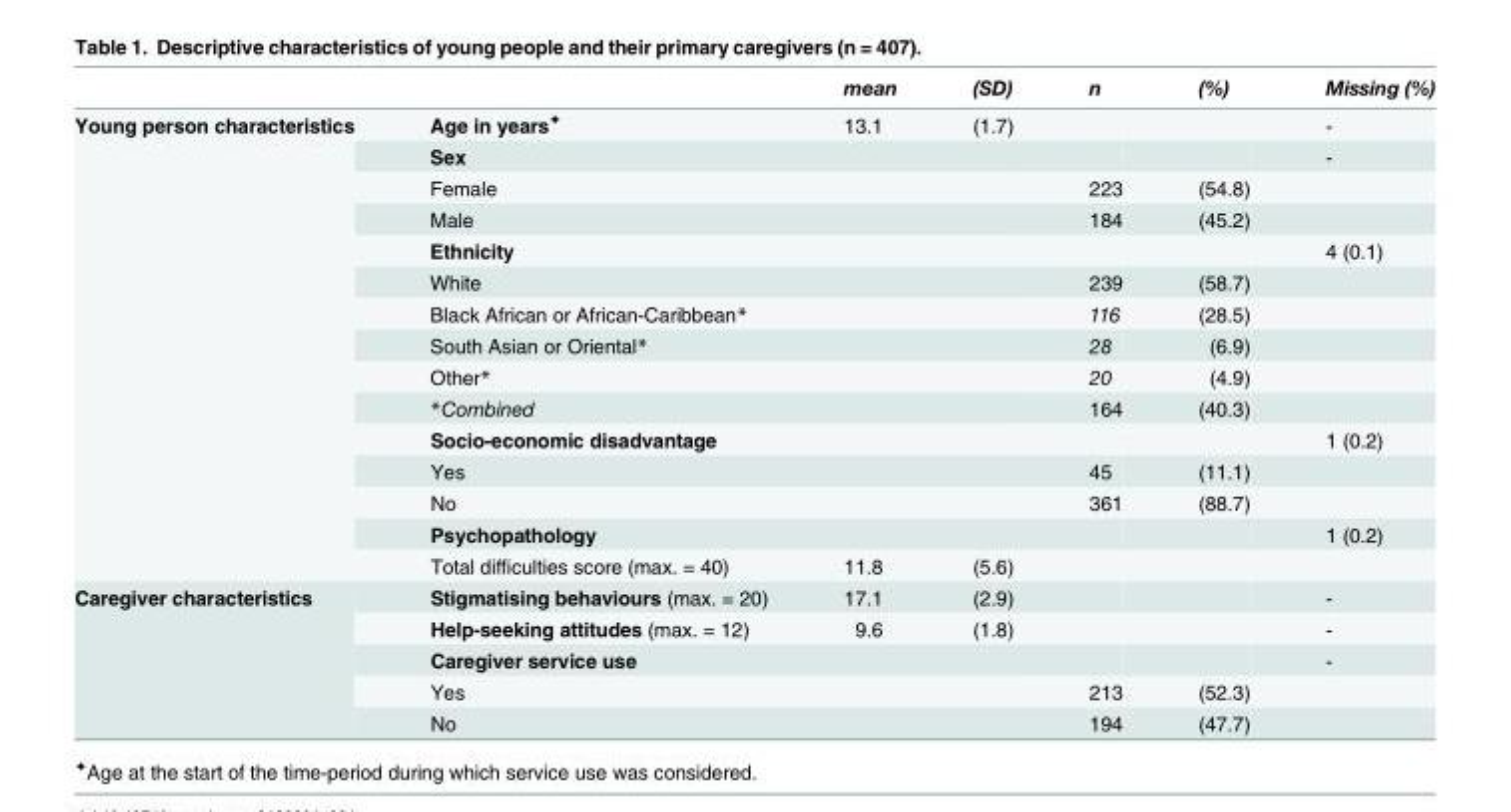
<table><thead><tr><td></td><td></td><td>mean</td><td>(SD)</td><td>n</td><td>(%)</td><td>Missing (%)</td></tr></thead><tbody><tr><td rowspan="15">Young person characteristics</td><td>Age in years<sup>✦</sup></td><td>13.1</td><td>(1.7)</td><td></td><td></td><td>-</td></tr><tr><td>Sex</td><td></td><td></td><td></td><td></td><td>-</td></tr><tr><td>Female</td><td></td><td></td><td>223</td><td>(54.8)</td><td></td></tr><tr><td>Male</td><td></td><td></td><td>184</td><td>(45.2)</td><td></td></tr><tr><td>Ethnicity</td><td></td><td></td><td></td><td></td><td>4 (0.1)</td></tr><tr><td>White</td><td></td><td></td><td>239</td><td>(58.7)</td><td></td></tr><tr><td>Black African or African-Caribbean*</td><td></td><td></td><td>116</td><td>(28.5)</td><td></td></tr><tr><td>South Asian or Oriental*</td><td></td><td></td><td>28</td><td>(6.9)</td><td></td></tr><tr><td>Other*</td><td></td><td></td><td>20</td><td>(4.9)</td><td></td></tr><tr><td>*Combined</td><td></td><td></td><td>164</td><td>(40.3)</td><td></td></tr><tr><td>Socio-economic disadvantage</td><td></td><td></td><td></td><td></td><td>1 (0.2)</td></tr><tr><td>Yes</td><td></td><td></td><td>45</td><td>(11.1)</td><td></td></tr><tr><td>No</td><td></td><td></td><td>361</td><td>(88.7)</td><td></td></tr><tr><td>Psychopathology</td><td></td><td></td><td></td><td></td><td>1 (0.2)</td></tr><tr><td>Total difficulties score (max. = 40)</td><td>11.8</td><td>(5.6)</td><td></td><td></td><td></td></tr><tr><td rowspan="5">Caregiver characteristics</td><td>Stigmatising behaviours (max. = 20)</td><td>17.1</td><td>(2.9)</td><td></td><td></td><td>-</td></tr><tr><td>Help-seeking attitudes (max. = 12)</td><td>9.6</td><td>(1.8)</td><td></td><td></td><td>-</td></tr><tr><td>Caregiver service use</td><td></td><td></td><td></td><td></td><td>-</td></tr><tr><td>Yes</td><td></td><td></td><td>213</td><td>(52.3)</td><td></td></tr><tr><td>No</td><td></td><td></td><td>194</td><td>(47.7)</td><td></td></tr></tbody></table>